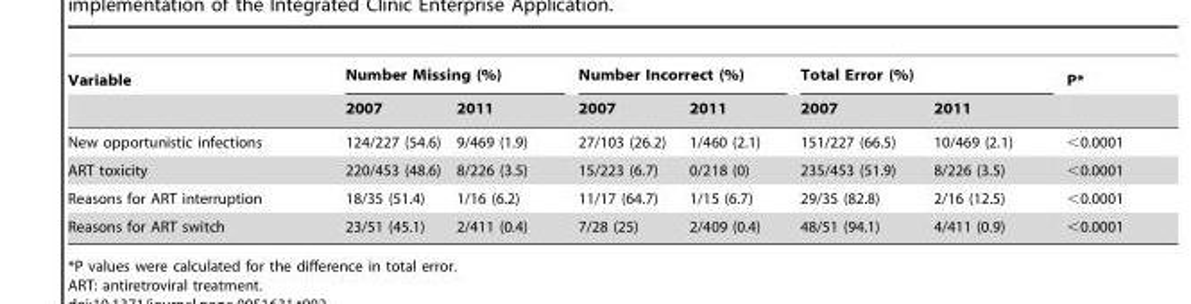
<table><thead><tr><td rowspan="2">Variable</td><td colspan="2">Number Missing (%)</td><td colspan="2">Number Incorrect (%)</td><td colspan="2">Total Error (%)</td><td rowspan="2">P*</td></tr><tr><td>2007</td><td>2011</td><td>2007</td><td>2011</td><td>2007</td><td>2011</td></tr></thead><tbody><tr><td>New opportunistic infections</td><td>124/227 (54.6)</td><td>9/469 (1.9)</td><td>27/103 (26.2)</td><td>1/460 (2.1)</td><td>151/227 (66.5)</td><td>10/469 (2.1)</td><td>&lt;0.0001</td></tr><tr><td>ART toxicity</td><td>220/453 (48.6)</td><td>8/226 (3.5)</td><td>15/223 (6.7)</td><td>0/218 (0)</td><td>235/453 (51.9)</td><td>8/226 (3.5)</td><td>&lt;0.0001</td></tr><tr><td>Reasons for ART interruption</td><td>18/35 (51.4)</td><td>1/16 (6.2)</td><td>11/17 (64.7)</td><td>1/15 (6.7)</td><td>29/35 (82.8)</td><td>2/16 (12.5)</td><td>&lt;0.0001</td></tr><tr><td>Reasons for ART switch</td><td>23/51 (45.1)</td><td>2/411 (0.4)</td><td>7/28 (25)</td><td>2/409 (0.4)</td><td>48/51 (94.1)</td><td>4/411 (0.9)</td><td>&lt;0.0001</td></tr></tbody></table>